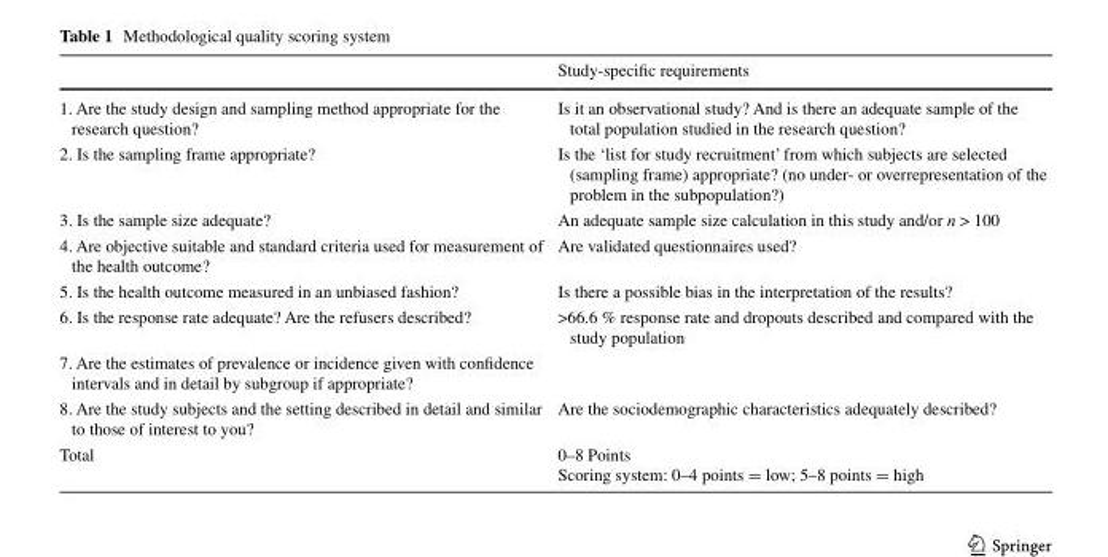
<table><thead><tr><td></td><td>Study-specific requirements</td></tr></thead><tbody><tr><td>1. Are the study design and sampling method appropriate for the research question?</td><td>Is it an observational study? And is there an adequate sample of the total population studied in the research question?</td></tr><tr><td>2. Is the sampling frame appropriate?</td><td>Is the ‘list for study recruitment’ from which subjects are selected (sampling frame) appropriate? (no under- or overrepresentation of the problem in the subpopulation?)</td></tr><tr><td>3. Is the sample size adequate?</td><td>An adequate sample size calculation in this study and/or n &gt; 100</td></tr><tr><td>4. Are objective suitable and standard criteria used for measurement of the health outcome?</td><td>Are validated questionnaires used?</td></tr><tr><td>5. Is the health outcome measured in an unbiased fashion?</td><td>Is there a possible bias in the interpretation of the results?</td></tr><tr><td>6. Is the response rate adequate? Are the refusers described?</td><td>&gt;66.6 % response rate and dropouts described and compared with the study population</td></tr><tr><td colspan="2">7. Are the estimates of prevalence or incidence given with confidence intervals and in detail by subgroup if appropriate?</td></tr><tr><td>8. Are the study subjects and the setting described in detail and similar to those of interest to you?</td><td>Are the sociodemographic characteristics adequately described?</td></tr><tr><td>Total</td><td>0–8 Points Scoring system: 0–4 points = low; 5–8 points = high</td></tr></tbody></table>